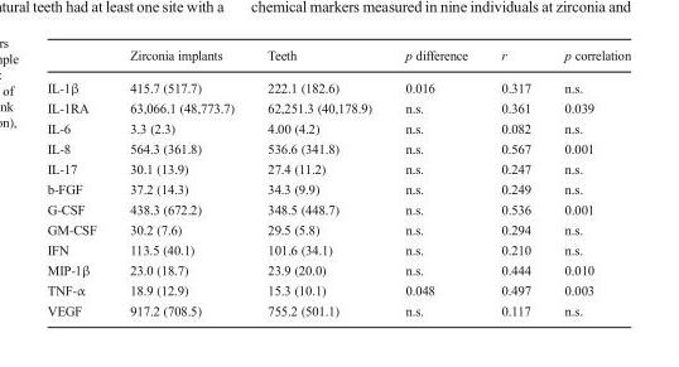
<table><thead><tr><td></td><td>Zirconia implants</td><td>Teeth</td><td>p difference</td><td>r</td><td>p correlation</td></tr></thead><tbody><tr><td>IL-1β</td><td>415.7 (517.7)</td><td>222.1 (182.6)</td><td>0.016</td><td>0.317</td><td>n.s.</td></tr><tr><td>IL-1RA</td><td>63,066.1 (48,773.7)</td><td>62,251.3 (40,178.9)</td><td>n.s.</td><td>0.361</td><td>0.039</td></tr><tr><td>IL-6</td><td>3.3 (2.3)</td><td>4.00 (4.2)</td><td>n.s.</td><td>0.082</td><td>n.s.</td></tr><tr><td>IL-8</td><td>564.3 (361.8)</td><td>536.6 (341.8)</td><td>n.s.</td><td>0.567</td><td>0.001</td></tr><tr><td>IL-17</td><td>30.1 (13.9)</td><td>27.4 (11.2)</td><td>n.s.</td><td>0.247</td><td>n.s.</td></tr><tr><td>b-FGF</td><td>37.2 (14.3)</td><td>34.3 (9.9)</td><td>n.s.</td><td>0.249</td><td>n.s.</td></tr><tr><td>G-CSF</td><td>438.3 (672.2)</td><td>348.5 (448.7)</td><td>n.s.</td><td>0.536</td><td>0.001</td></tr><tr><td>GM-CSF</td><td>30.2 (7.6)</td><td>29.5 (5.8)</td><td>n.s.</td><td>0.294</td><td>n.s.</td></tr><tr><td>IFN</td><td>113.5 (40.1)</td><td>101.6 (34.1)</td><td>n.s.</td><td>0.210</td><td>n.s.</td></tr><tr><td>MIP-1β</td><td>23.0 (18.7)</td><td>23.9 (20.0)</td><td>n.s.</td><td>0.444</td><td>0.010</td></tr><tr><td>TNF-α</td><td>18.9 (12.9)</td><td>15.3 (10.1)</td><td>0.048</td><td>0.497</td><td>0.003</td></tr><tr><td>VEGF</td><td>917.2 (708.5)</td><td>755.2 (501.1)</td><td>n.s.</td><td>0.117</td><td>n.s.</td></tr></tbody></table>